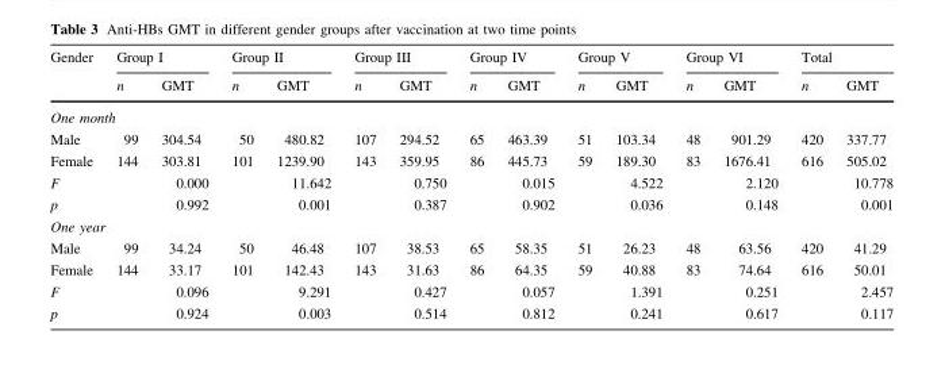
<table><thead><tr><td rowspan="2">Gender</td><td colspan="2">Group I</td><td colspan="2">Group II</td><td colspan="2">Group III</td><td colspan="2">Group IV</td><td colspan="2">Group V</td><td colspan="2">Group VI</td><td colspan="2">Total</td></tr><tr><td>n</td><td>GMT</td><td>n</td><td>GMT</td><td>n</td><td>GMT</td><td>n</td><td>GMT</td><td>n</td><td>GMT</td><td>n</td><td>GMT</td><td>n</td><td>GMT</td></tr></thead><tbody><tr><td colspan="15">One month</td></tr><tr><td>Male</td><td>99</td><td>304.54</td><td>50</td><td>480.82</td><td>107</td><td>294.52</td><td>65</td><td>463.39</td><td>51</td><td>103.34</td><td>48</td><td>901.29</td><td>420</td><td>337.77</td></tr><tr><td>Female</td><td>144</td><td>303.81</td><td>101</td><td>1239.90</td><td>143</td><td>359.95</td><td>86</td><td>445.73</td><td>59</td><td>189.30</td><td>83</td><td>1676.41</td><td>616</td><td>505.02</td></tr><tr><td>F</td><td></td><td>0.000</td><td></td><td>11.642</td><td></td><td>0.750</td><td></td><td>0.015</td><td></td><td>4.522</td><td></td><td>2.120</td><td></td><td>10.778</td></tr><tr><td>p</td><td></td><td>0.992</td><td></td><td>0.001</td><td></td><td>0.387</td><td></td><td>0.902</td><td></td><td>0.036</td><td></td><td>0.148</td><td></td><td>0.001</td></tr><tr><td colspan="15">One year</td></tr><tr><td>Male</td><td>99</td><td>34.24</td><td>50</td><td>46.48</td><td>107</td><td>38.53</td><td>65</td><td>58.35</td><td>51</td><td>26.23</td><td>48</td><td>63.56</td><td>420</td><td>41.29</td></tr><tr><td>Female</td><td>144</td><td>33.17</td><td>101</td><td>142.43</td><td>143</td><td>31.63</td><td>86</td><td>64.35</td><td>59</td><td>40.88</td><td>83</td><td>74.64</td><td>616</td><td>50.01</td></tr><tr><td>F</td><td></td><td>0.096</td><td></td><td>9.291</td><td></td><td>0.427</td><td></td><td>0.057</td><td></td><td>1.391</td><td></td><td>0.251</td><td></td><td>2.457</td></tr><tr><td>p</td><td></td><td>0.924</td><td></td><td>0.003</td><td></td><td>0.514</td><td></td><td>0.812</td><td></td><td>0.241</td><td></td><td>0.617</td><td></td><td>0.117</td></tr></tbody></table>